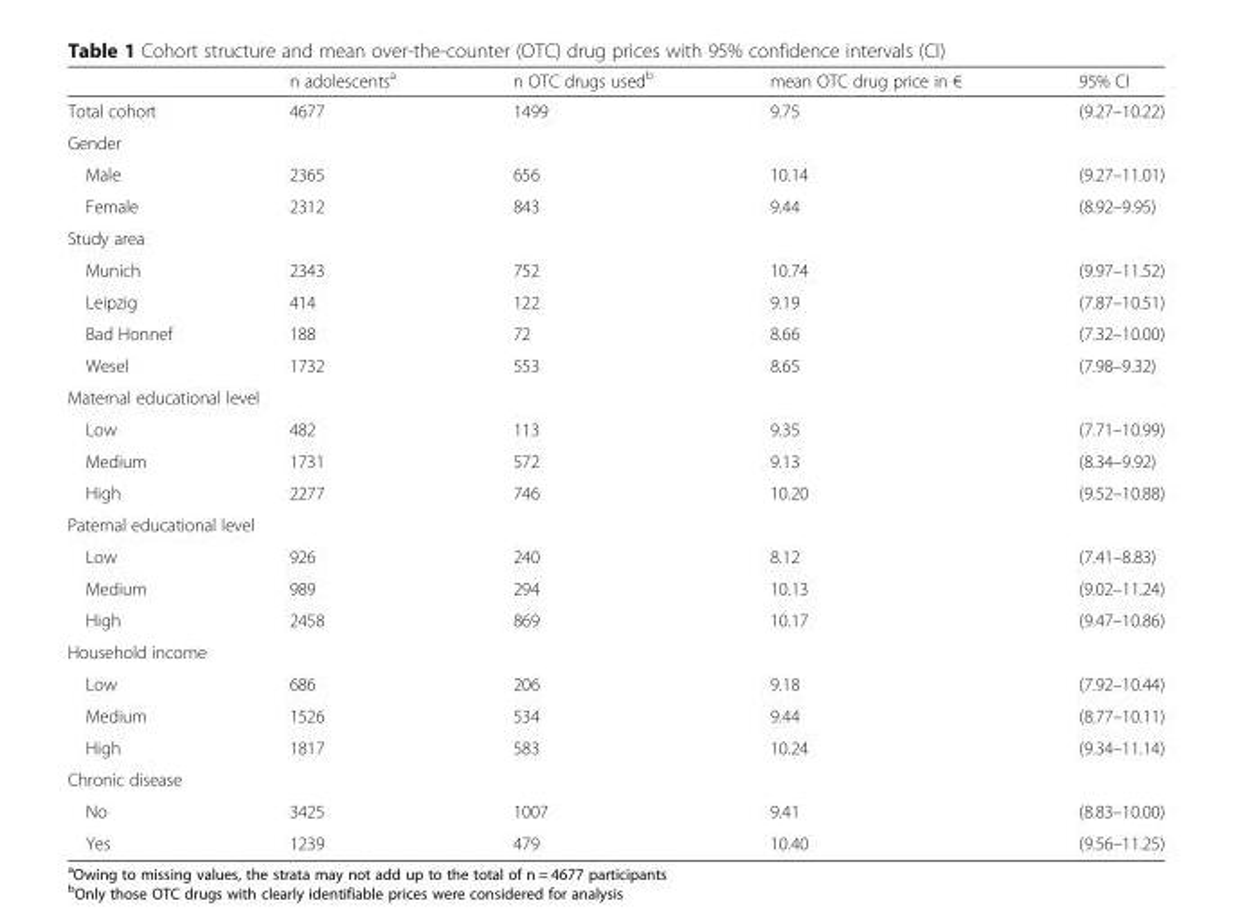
<table><thead><tr><td></td><td>n adolescents<sup>a</sup></td><td>n OTC drugs used<sup>b</sup></td><td>mean OTC drug price in €</td><td>95% CI</td></tr></thead><tbody><tr><td>Total cohort</td><td>4677</td><td>1499</td><td>9.75</td><td>(9.27–10.22)</td></tr><tr><td colspan="5">Gender</td></tr><tr><td>Male</td><td>2365</td><td>656</td><td>10.14</td><td>(9.27–11.01)</td></tr><tr><td>Female</td><td>2312</td><td>843</td><td>9.44</td><td>(8.92–9.95)</td></tr><tr><td colspan="5">Study area</td></tr><tr><td>Munich</td><td>2343</td><td>752</td><td>10.74</td><td>(9.97–11.52)</td></tr><tr><td>Leipzig</td><td>414</td><td>122</td><td>9.19</td><td>(7.87–10.51)</td></tr><tr><td>Bad Honnef</td><td>188</td><td>72</td><td>8.66</td><td>(7.32–10.00)</td></tr><tr><td>Wesel</td><td>1732</td><td>553</td><td>8.65</td><td>(7.98–9.32)</td></tr><tr><td colspan="5">Maternal educational level</td></tr><tr><td>Low</td><td>482</td><td>113</td><td>9.35</td><td>(7.71–10.99)</td></tr><tr><td>Medium</td><td>1731</td><td>572</td><td>9.13</td><td>(8.34–9.92)</td></tr><tr><td>High</td><td>2277</td><td>746</td><td>10.20</td><td>(9.52–10.88)</td></tr><tr><td colspan="5">Paternal educational level</td></tr><tr><td>Low</td><td>926</td><td>240</td><td>8.12</td><td>(7.41–8.83)</td></tr><tr><td>Medium</td><td>989</td><td>294</td><td>10.13</td><td>(9.02–11.24)</td></tr><tr><td>High</td><td>2458</td><td>869</td><td>10.17</td><td>(9.47–10.86)</td></tr><tr><td colspan="5">Household income</td></tr><tr><td>Low</td><td>686</td><td>206</td><td>9.18</td><td>(7.92–10.44)</td></tr><tr><td>Medium</td><td>1526</td><td>534</td><td>9.44</td><td>(8.77–10.11)</td></tr><tr><td>High</td><td>1817</td><td>583</td><td>10.24</td><td>(9.34–11.14)</td></tr><tr><td colspan="5">Chronic disease</td></tr><tr><td>No</td><td>3425</td><td>1007</td><td>9.41</td><td>(8.83–10.00)</td></tr><tr><td>Yes</td><td>1239</td><td>479</td><td>10.40</td><td>(9.56–11.25)</td></tr></tbody></table>